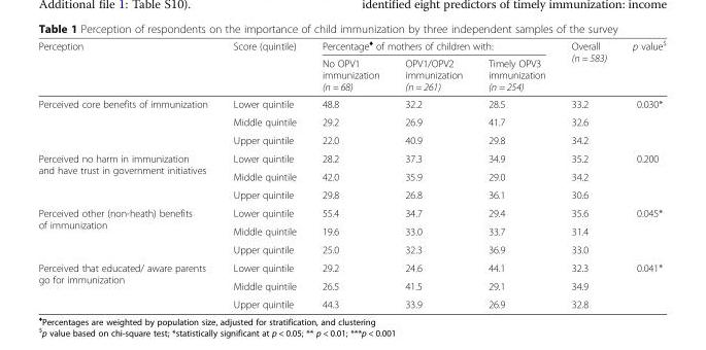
<table><thead><tr><td rowspan="2">Perception</td><td rowspan="2">Score (quintile)</td><td colspan="3">Percentage<sup>♦</sup> of mothers of children with:</td><td rowspan="2">Overall (n = 583)</td><td rowspan="2">p value<sup>$</sup></td></tr><tr><td>No OPV1 immunization (n = 68)</td><td>OPV1/OPV2 immunization (n = 261)</td><td>Timely OPV3 immunization (n = 254)</td></tr></thead><tbody><tr><td rowspan="3">Perceived core benefits of immunization</td><td>Lower quintile</td><td>48.8</td><td>32.2</td><td>28.5</td><td>33.2</td><td>0.030*</td></tr><tr><td>Middle quintile</td><td>29.2</td><td>26.9</td><td>41.7</td><td>32.6</td><td></td></tr><tr><td>Upper quintile</td><td>22.0</td><td>40.9</td><td>29.8</td><td>34.2</td><td></td></tr><tr><td rowspan="3">Perceived no harm in immunization and have trust in government initiatives</td><td>Lower quintile</td><td>28.2</td><td>37.3</td><td>34.9</td><td>35.2</td><td>0.200</td></tr><tr><td>Middle quintile</td><td>42.0</td><td>35.9</td><td>29.0</td><td>34.2</td><td></td></tr><tr><td>Upper quintile</td><td>29.8</td><td>26.8</td><td>36.1</td><td>30.6</td><td></td></tr><tr><td rowspan="3">Perceived other (non-heath) benefits of immunization</td><td>Lower quintile</td><td>55.4</td><td>34.7</td><td>29.4</td><td>35.6</td><td>0.045*</td></tr><tr><td>Middle quintile</td><td>19.6</td><td>33.0</td><td>33.7</td><td>31.4</td><td></td></tr><tr><td>Upper quintile</td><td>25.0</td><td>32.3</td><td>36.9</td><td>33.0</td><td></td></tr><tr><td rowspan="3">Perceived that educated/ aware parents go for immunization</td><td>Lower quintile</td><td>29.2</td><td>24.6</td><td>44.1</td><td>32.3</td><td>0.041*</td></tr><tr><td>Middle quintile</td><td>26.5</td><td>41.5</td><td>29.1</td><td>34.9</td><td></td></tr><tr><td>Upper quintile</td><td>44.3</td><td>33.9</td><td>26.9</td><td>32.8</td><td></td></tr></tbody></table>